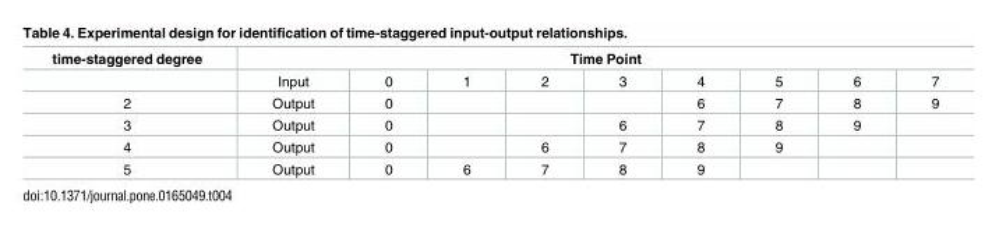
<table><thead><tr><td rowspan="2">time-staggered degree</td><td colspan="9">Time Point</td></tr><tr><td>Input</td><td>0</td><td>1</td><td>2</td><td>3</td><td>4</td><td>5</td><td>6</td><td>7</td></tr></thead><tbody><tr><td>2</td><td>Output</td><td>0</td><td></td><td></td><td></td><td>6</td><td>7</td><td>8</td><td>9</td></tr><tr><td>3</td><td>Output</td><td>0</td><td></td><td></td><td>6</td><td>7</td><td>8</td><td>9</td><td></td></tr><tr><td>4</td><td>Output</td><td>0</td><td></td><td>6</td><td>7</td><td>8</td><td>9</td><td></td><td></td></tr><tr><td>5</td><td>Output</td><td>0</td><td>6</td><td>7</td><td>8</td><td>9</td><td></td><td></td><td></td></tr></tbody></table>